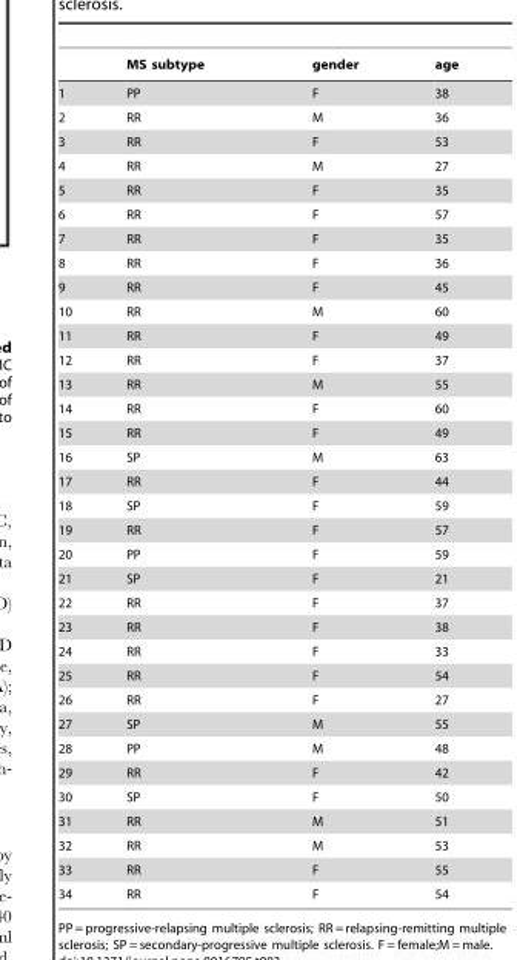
<table><thead><tr><td></td><td>MS subtype</td><td>gender</td><td>age</td></tr></thead><tbody><tr><td>1</td><td>PP</td><td>F</td><td>38</td></tr><tr><td>2</td><td>RR</td><td>M</td><td>36</td></tr><tr><td>3</td><td>RR</td><td>F</td><td>53</td></tr><tr><td>4</td><td>RR</td><td>M</td><td>27</td></tr><tr><td>5</td><td>RR</td><td>F</td><td>35</td></tr><tr><td>6</td><td>RR</td><td>F</td><td>57</td></tr><tr><td>7</td><td>RR</td><td>F</td><td>35</td></tr><tr><td>8</td><td>RR</td><td>F</td><td>36</td></tr><tr><td>9</td><td>RR</td><td>F</td><td>45</td></tr><tr><td>10</td><td>RR</td><td>M</td><td>60</td></tr><tr><td>11</td><td>RR</td><td>F</td><td>49</td></tr><tr><td>12</td><td>RR</td><td>F</td><td>37</td></tr><tr><td>13</td><td>RR</td><td>M</td><td>55</td></tr><tr><td>14</td><td>RR</td><td>F</td><td>60</td></tr><tr><td>15</td><td>RR</td><td>F</td><td>49</td></tr><tr><td>16</td><td>SP</td><td>M</td><td>63</td></tr><tr><td>17</td><td>RR</td><td>F</td><td>44</td></tr><tr><td>18</td><td>SP</td><td>F</td><td>59</td></tr><tr><td>19</td><td>RR</td><td>F</td><td>57</td></tr><tr><td>20</td><td>PP</td><td>F</td><td>59</td></tr><tr><td>21</td><td>SP</td><td>F</td><td>21</td></tr><tr><td>22</td><td>RR</td><td>F</td><td>37</td></tr><tr><td>23</td><td>RR</td><td>F</td><td>38</td></tr><tr><td>24</td><td>RR</td><td>F</td><td>33</td></tr><tr><td>25</td><td>RR</td><td>F</td><td>54</td></tr><tr><td>26</td><td>RR</td><td>F</td><td>27</td></tr><tr><td>27</td><td>SP</td><td>M</td><td>55</td></tr><tr><td>28</td><td>PP</td><td>M</td><td>48</td></tr><tr><td>29</td><td>RR</td><td>F</td><td>42</td></tr><tr><td>30</td><td>SP</td><td>F</td><td>50</td></tr><tr><td>31</td><td>RR</td><td>M</td><td>51</td></tr><tr><td>32</td><td>RR</td><td>M</td><td>53</td></tr><tr><td>33</td><td>RR</td><td>F</td><td>55</td></tr><tr><td>34</td><td>RR</td><td>F</td><td>54</td></tr></tbody></table>